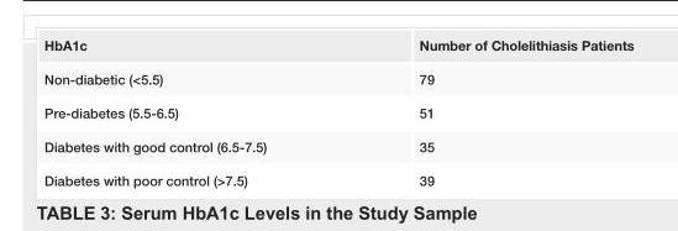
<table><tbody><tr><td>HbA1c</td><td>Number of Cholelithiasis Patients</td></tr><tr><td>Non-diabetic (&lt;5.5)</td><td>79</td></tr><tr><td>Pre-diabetes (5.5-6.5)</td><td>51</td></tr><tr><td>Diabetes with good control (6.5-7.5)</td><td>35</td></tr><tr><td>Diabetes with poor control (&gt;7.5)</td><td>39</td></tr></tbody></table>